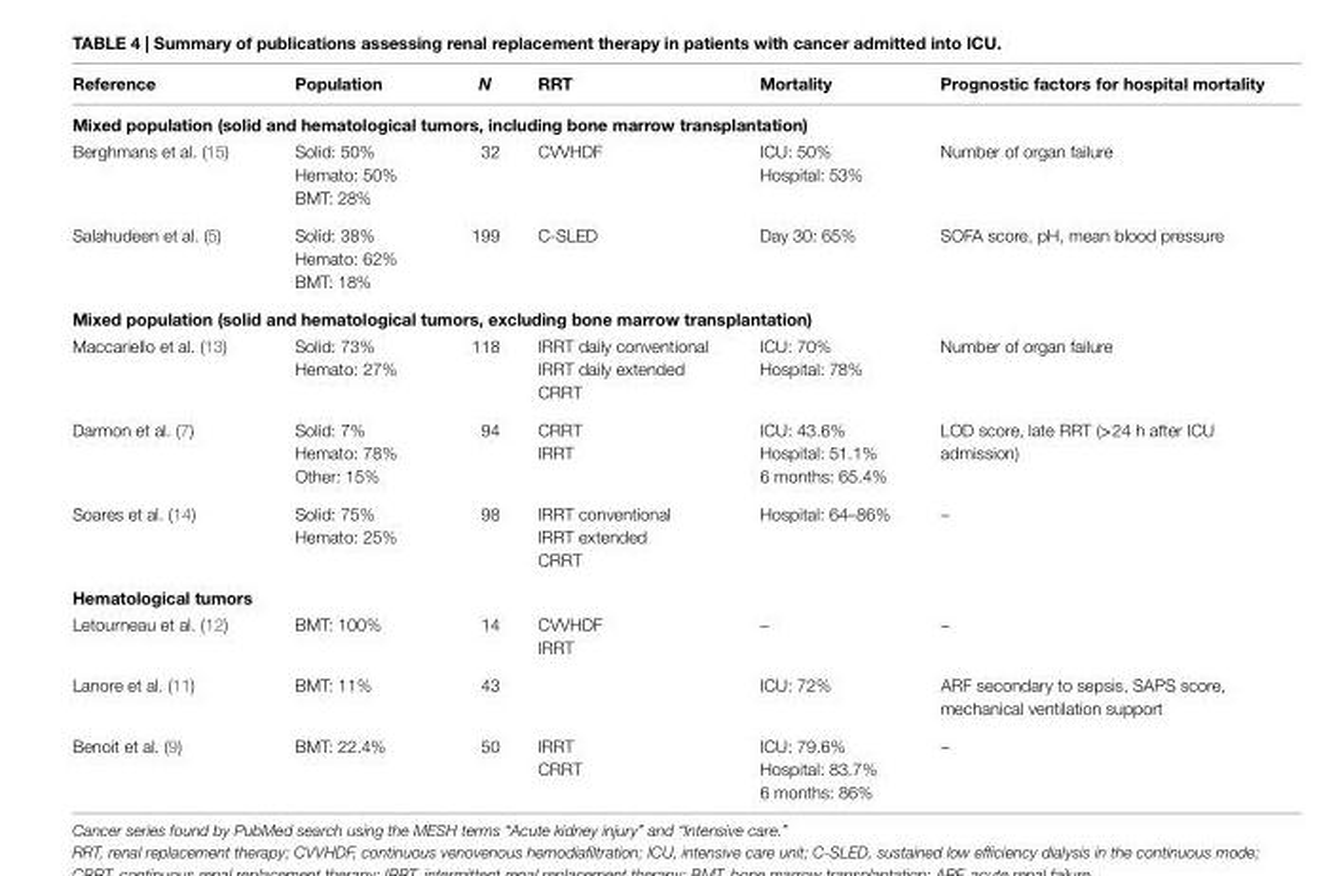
<table><thead><tr><td>reference</td><td>Population</td><td>N</td><td>rrT</td><td>Mortality</td><td>Prognostic factors for hospital mortality</td></tr></thead><tbody><tr><td colspan="6">Mixed population (solid and hematological tumors, including bone marrow transplantation)</td></tr><tr><td rowspan="3">Berghmans et al. (15)</td><td>Solid: 50%</td><td rowspan="3">32</td><td rowspan="3">CVVHDF</td><td>ICU: 50%</td><td rowspan="3">Number of organ failure</td></tr><tr><td>Hemato: 50%</td><td rowspan="2">Hospital: 53%</td></tr><tr><td>BMT: 28%</td></tr><tr><td rowspan="3">Salahudeen et al. (5)</td><td>Solid: 38%</td><td rowspan="3">199</td><td rowspan="3">C-SLED</td><td rowspan="3">Day 30: 65%</td><td rowspan="3">SOFA score, pH, mean blood pressure</td></tr><tr><td>Hemato: 62%</td></tr><tr><td>BMT: 18%</td></tr><tr><td colspan="6">Mixed population (solid and hematological tumors, excluding bone marrow transplantation)</td></tr><tr><td rowspan="3">Maccariello et al. (13)</td><td>Solid: 73%</td><td rowspan="3">118</td><td>IRRT daily conventional</td><td>ICU: 70%</td><td rowspan="3">Number of organ failure</td></tr><tr><td rowspan="2">Hemato: 27%</td><td>IRRT daily extended</td><td rowspan="2">Hospital: 78%</td></tr><tr><td>CRRT</td></tr><tr><td rowspan="3">Darmon et al. (7)</td><td>Solid: 7%</td><td rowspan="3">94</td><td>CRRT</td><td>ICU: 43.6%</td><td rowspan="3">LOD score, late RRT (&gt;24 h after ICU admission)</td></tr><tr><td>Hemato: 78%</td><td rowspan="2">IRRT</td><td>Hospital: 51.1%</td></tr><tr><td>Other: 15%</td><td>6 months: 65.4%</td></tr><tr><td rowspan="3">Soares et al. (14)</td><td>Solid: 75%</td><td rowspan="3">98</td><td>IRRT conventional</td><td rowspan="3">Hospital: 64–86%</td><td rowspan="3">–</td></tr><tr><td rowspan="2">Hemato: 25%</td><td>IRRT extended</td></tr><tr><td>CRRT</td></tr><tr><td colspan="6">hematological tumors</td></tr><tr><td rowspan="2">Letourneau et al. (12)</td><td rowspan="2">BMT: 100%</td><td rowspan="2">14</td><td>CVVHDF</td><td rowspan="2">–</td><td rowspan="2">–</td></tr><tr><td>IRRT</td></tr><tr><td>Lanore et al. (11)</td><td>BMT: 11%</td><td>43</td><td></td><td>ICU: 72%</td><td>ARF secondary to sepsis, SAPS score, mechanical ventilation support</td></tr><tr><td rowspan="3">Benoit et al. (9)</td><td rowspan="3">BMT: 22.4%</td><td rowspan="3">50</td><td>IRRT</td><td>ICU: 79.6%</td><td rowspan="3">–</td></tr><tr><td rowspan="2">CRRT</td><td>Hospital: 83.7%</td></tr><tr><td>6 months: 86%</td></tr></tbody></table>